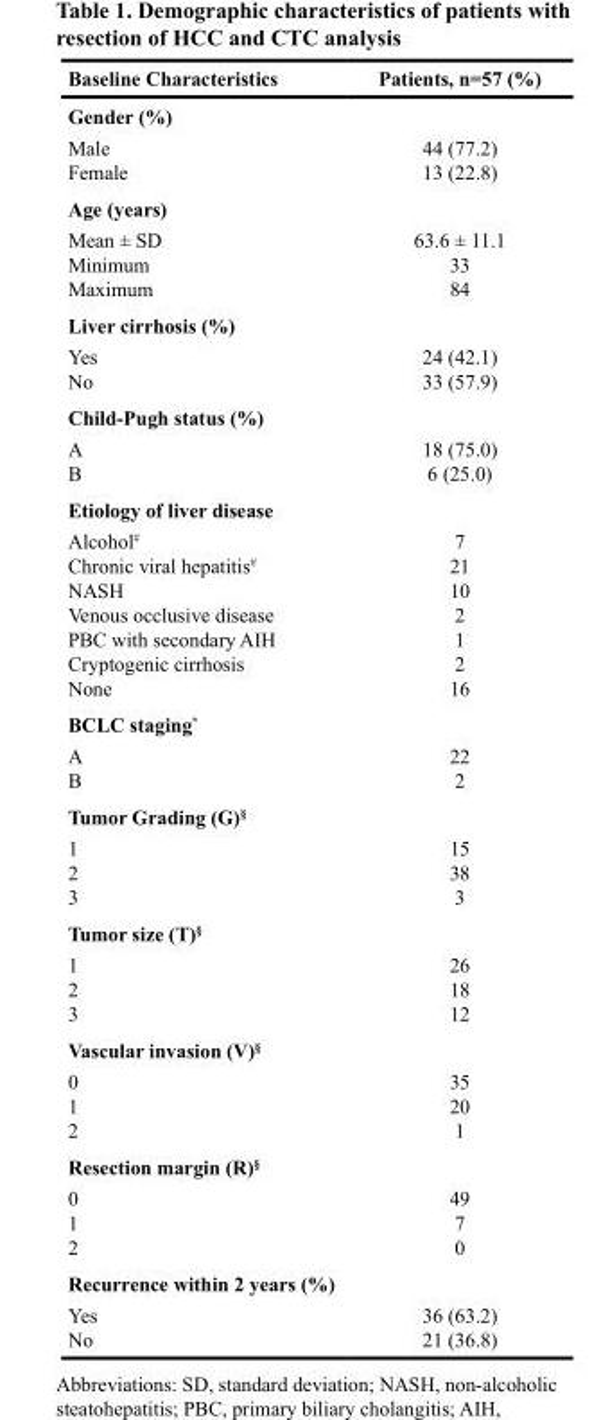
<table><thead><tr><td>Baseline Characteristics</td><td>Patients, n=57 (%)</td></tr></thead><tbody><tr><td>Gender (%) Male Female</td><td>44 (77.2) 13 (22.8)</td></tr><tr><td>Age (years) Mean ± SD Minimum Maximum</td><td>63.6 ± 11.1 33 84</td></tr><tr><td>Liver cirrhosis (%) Yes No</td><td>24 (42.1) 33 (57.9)</td></tr><tr><td>Child-Pugh status (%) A B</td><td>18 (75.0) 6 (25.0)</td></tr><tr><td>Etiology of liver disease Alcohol<sup>#</sup> Chronic viral hepatitis<sup>#</sup> NASH Venous occlusive disease PBC with secondary AIH Cryptogenic cirrhosis None</td><td>7 21 10 2 1 2 16</td></tr><tr><td>BCLC staging* A B</td><td>22 2</td></tr><tr><td>Tumor Grading (G)<sup>§</sup> 1 2 3</td><td>15 38 3</td></tr><tr><td>Tumor size (T)<sup>§</sup> 1 2 3</td><td>26 18 12</td></tr><tr><td>Vascular invasion (V)<sup>§</sup> 0 1 2</td><td>35 20 1</td></tr><tr><td>Resection margin (R)<sup>§</sup> 0 1 2</td><td>49 7 0</td></tr><tr><td>Recurrence within 2 years (%) Yes No</td><td>36 (63.2) 21 (36.8)</td></tr></tbody></table>